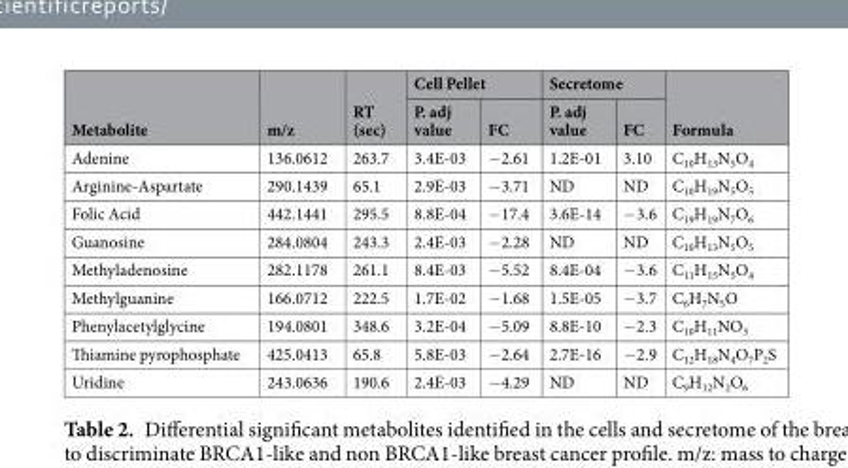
<table><thead><tr><td rowspan="2">Metabolite</td><td rowspan="2">m/z</td><td rowspan="2">RT (sec)</td><td colspan="2">Cell Pellet</td><td colspan="2">Secretome</td><td rowspan="2">Formula</td></tr><tr><td>P. adj value</td><td>FC</td><td>P. adj value</td><td>FC</td></tr></thead><tbody><tr><td>Adenine</td><td>136.0612</td><td>263.7</td><td>3.4E-03</td><td>−2.61</td><td>1.2E-01</td><td>3.10</td><td>C<sub>10</sub>H<sub>13</sub>N<sub>5</sub>O<sub>4</sub></td></tr><tr><td>Arginine-Aspartate</td><td>290.1439</td><td>65.1</td><td>2.9E-03</td><td>−3.71</td><td>ND</td><td>ND</td><td>C<sub>10</sub>H<sub>19</sub>N<sub>5</sub>O<sub>5</sub></td></tr><tr><td>Folic Acid</td><td>442.1441</td><td>295.5</td><td>8.8E-04</td><td>−17.4</td><td>3.6E-14</td><td>−3.6</td><td>C<sub>19</sub>H<sub>19</sub>N<sub>7</sub>O<sub>6</sub></td></tr><tr><td>Guanosine</td><td>284.0804</td><td>243.3</td><td>2.4E-03</td><td>−2.28</td><td>ND</td><td>ND</td><td>C<sub>10</sub>H<sub>13</sub>N<sub>5</sub>O<sub>5</sub></td></tr><tr><td>Methyladenosine</td><td>282.1178</td><td>261.1</td><td>8.4E-03</td><td>−5.52</td><td>8.4E-04</td><td>−3.6</td><td>C<sub>11</sub>H<sub>15</sub>N<sub>5</sub>O<sub>4</sub></td></tr><tr><td>Methylguanine</td><td>166.0712</td><td>222.5</td><td>1.7E-02</td><td>−1.68</td><td>1.5E-05</td><td>−3.7</td><td>C<sub>6</sub>H<sub>7</sub>N<sub>5</sub>O</td></tr><tr><td>Phenylacetylglycine</td><td>194.0801</td><td>348.6</td><td>3.2E-04</td><td>−5.09</td><td>8.8E-10</td><td>−2.3</td><td>C<sub>10</sub>H<sub>11</sub>NO<sub>3</sub></td></tr><tr><td>Thiamine pyrophosphate</td><td>425.0413</td><td>65.8</td><td>5.8E-03</td><td>−2.64</td><td>2.7E-16</td><td>−2.9</td><td>C<sub>12</sub>H<sub>18</sub>N<sub>4</sub>O<sub>7</sub>P<sub>2</sub>S</td></tr><tr><td>Uridine</td><td>243.0636</td><td>190.6</td><td>2.4E-03</td><td>−4.29</td><td>ND</td><td>ND</td><td>C<sub>9</sub>H<sub>12</sub>N<sub>2</sub>O<sub>6</sub></td></tr></tbody></table>